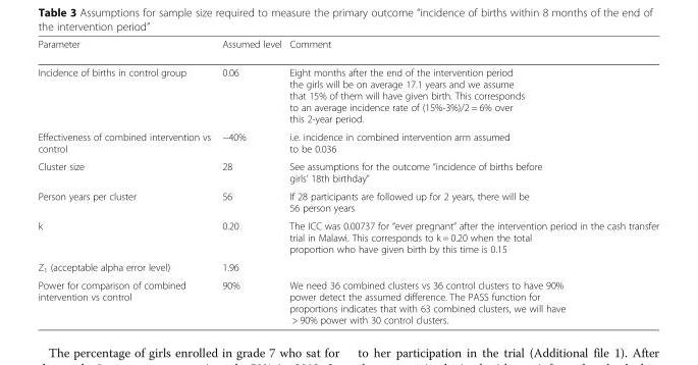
<table><thead><tr><td>Parameter</td><td>Assumed level</td><td>Comment</td></tr></thead><tbody><tr><td>Incidence of births in control group</td><td>0.06</td><td>Eight months after the end of the intervention period the girls will be on average 17.1 years and we assume that 15% of them will have given birth. This corresponds to an average incidence rate of (15%-3%)/2 = 6% over this 2-year period.</td></tr><tr><td>Effectiveness of combined intervention vs control</td><td>−40%</td><td>i.e. incidence in combined intervention arm assumed to be 0.036</td></tr><tr><td>Cluster size</td><td>28</td><td>See assumptions for the outcome “incidence of births before girls’ 18th birthday”</td></tr><tr><td>Person years per cluster</td><td>56</td><td>If 28 participants are followed up for 2 years, there will be 56 person years</td></tr><tr><td>k</td><td>0.20</td><td>The ICC was 0.00737 for “ever pregnant” after the intervention period in the cash transfer trial in Malawi. This corresponds to k = 0.20 when the total proportion who have given birth by this time is 0.15</td></tr><tr><td>Z<sub>1</sub> (acceptable alpha error level)</td><td>1.96</td><td></td></tr><tr><td>Power for comparison of combined intervention vs control</td><td>90%</td><td>We need 36 combined clusters vs 36 control clusters to have 90% power detect the assumed difference. The PASS function for proportions indicates that with 63 combined clusters, we will have &gt; 90% power with 30 control clusters.</td></tr></tbody></table>